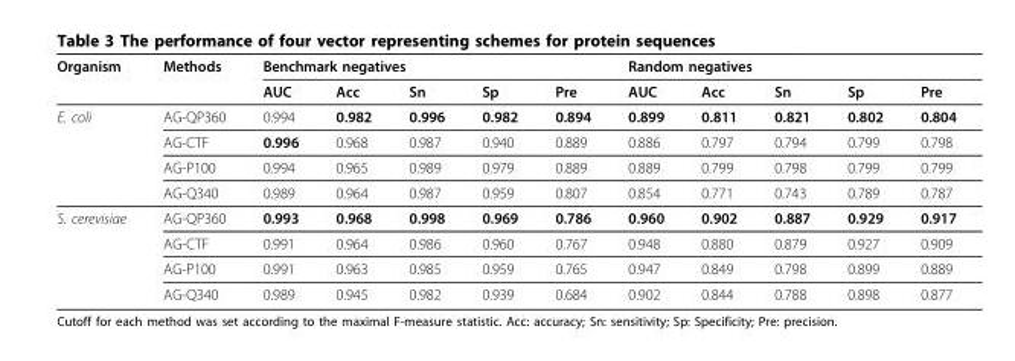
<table><thead><tr><td rowspan="2">Organism</td><td rowspan="2">Methods</td><td colspan="5">Benchmark negatives</td><td colspan="5">Random negatives</td></tr><tr><td>AUC</td><td>Acc</td><td>Sn</td><td>Sp</td><td>Pre</td><td>AUC</td><td>Acc</td><td>Sn</td><td>Sp</td><td>Pre</td></tr></thead><tbody><tr><td rowspan="4">E. coli</td><td>AG-QP360</td><td>0.994</td><td>0.982</td><td>0.996</td><td>0.982</td><td>0.894</td><td>0.899</td><td>0.811</td><td>0.821</td><td>0.802</td><td>0.804</td></tr><tr><td>AG-CTF</td><td>0.996</td><td>0.968</td><td>0.987</td><td>0.940</td><td>0.889</td><td>0.886</td><td>0.797</td><td>0.794</td><td>0.799</td><td>0.798</td></tr><tr><td>AG-P100</td><td>0.994</td><td>0.965</td><td>0.989</td><td>0.979</td><td>0.889</td><td>0.889</td><td>0.799</td><td>0.798</td><td>0.799</td><td>0.799</td></tr><tr><td>AG-Q340</td><td>0.989</td><td>0.964</td><td>0.987</td><td>0.959</td><td>0.807</td><td>0.854</td><td>0.771</td><td>0.743</td><td>0.789</td><td>0.787</td></tr><tr><td rowspan="4">S. cerevisiae</td><td>AG-QP360</td><td>0.993</td><td>0.968</td><td>0.998</td><td>0.969</td><td>0.786</td><td>0.960</td><td>0.902</td><td>0.887</td><td>0.929</td><td>0.917</td></tr><tr><td>AG-CTF</td><td>0.991</td><td>0.964</td><td>0.986</td><td>0.960</td><td>0.767</td><td>0.948</td><td>0.880</td><td>0.879</td><td>0.927</td><td>0.909</td></tr><tr><td>AG-P100</td><td>0.991</td><td>0.963</td><td>0.985</td><td>0.959</td><td>0.765</td><td>0.947</td><td>0.849</td><td>0.798</td><td>0.899</td><td>0.889</td></tr><tr><td>AG-Q340</td><td>0.989</td><td>0.945</td><td>0.982</td><td>0.939</td><td>0.684</td><td>0.902</td><td>0.844</td><td>0.788</td><td>0.898</td><td>0.877</td></tr></tbody></table>